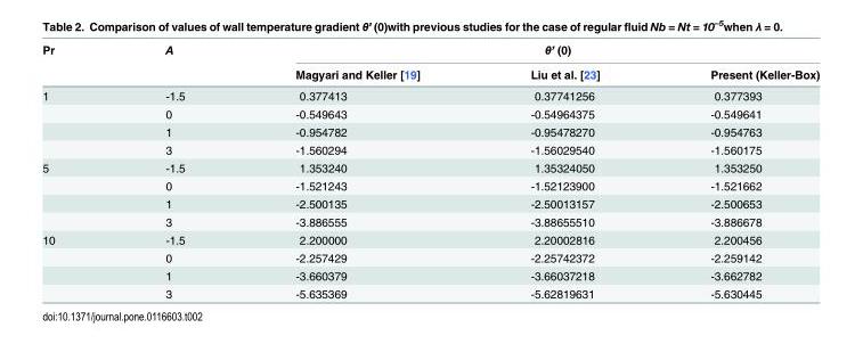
<table><thead><tr><td rowspan="2">Pr</td><td rowspan="2">A</td><td colspan="3">θ’ (0)</td></tr><tr><td>Magyari and Keller [19]</td><td>Liu et al. [23]</td><td>Present (Keller-Box)</td></tr></thead><tbody><tr><td rowspan="4">1</td><td>-1.5</td><td>0.377413</td><td>0.37741256</td><td>0.377393</td></tr><tr><td>0</td><td>-0.549643</td><td>-0.54964375</td><td>-0.549641</td></tr><tr><td>1</td><td>-0.954782</td><td>-0.95478270</td><td>-0.954763</td></tr><tr><td>3</td><td>-1.560294</td><td>-1.56029540</td><td>-1.560175</td></tr><tr><td rowspan="4">5</td><td>-1.5</td><td>1.353240</td><td>1.35324050</td><td>1.353250</td></tr><tr><td>0</td><td>-1.521243</td><td>-1.52123900</td><td>-1.521662</td></tr><tr><td>1</td><td>-2.500135</td><td>-2.50013157</td><td>-2.500653</td></tr><tr><td>3</td><td>-3.886555</td><td>-3.88655510</td><td>-3.886678</td></tr><tr><td rowspan="4">10</td><td>-1.5</td><td>2.200000</td><td>2.20002816</td><td>2.200456</td></tr><tr><td>0</td><td>-2.257429</td><td>-2.25742372</td><td>-2.259142</td></tr><tr><td>1</td><td>-3.660379</td><td>-3.66037218</td><td>-3.662782</td></tr><tr><td>3</td><td>-5.635369</td><td>-5.62819631</td><td>-5.630445</td></tr></tbody></table>